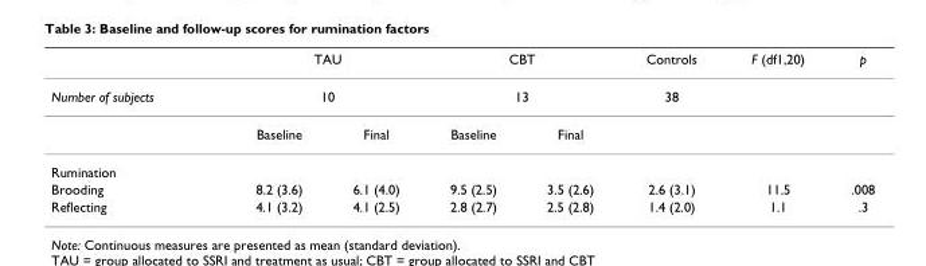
<table><thead><tr><td rowspan="3">Number of subjects</td><td rowspan="2" colspan="2">TAU 10</td><td rowspan="2" colspan="2">CBT 13</td><td rowspan="3">Controls 38</td><td rowspan="3">F (df1,20)</td><td rowspan="3">p</td></tr><tr></tr><tr><td>Baseline</td><td>Final</td><td>Baseline</td><td>Final</td></tr></thead><tbody><tr><td colspan="8">Rumination</td></tr><tr><td>Brooding</td><td>8.2 (3.6)</td><td>6.1 (4.0)</td><td>9.5 (2.5)</td><td>3.5 (2.6)</td><td>2.6 (3.1)</td><td>11.5</td><td>.008</td></tr><tr><td>Reflecting</td><td>4.1 (3.2)</td><td>4.1 (2.5)</td><td>2.8 (2.7)</td><td>2.5 (2.8)</td><td>1.4 (2.0)</td><td>1.1</td><td>.3</td></tr></tbody></table>